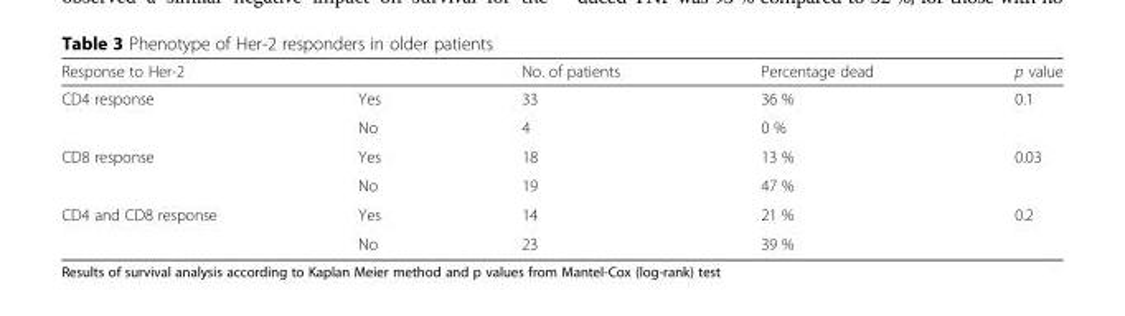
<table><thead><tr><td>Response to Her-2</td><td></td><td>No. of patients</td><td>Percentage dead</td><td>p value</td></tr></thead><tbody><tr><td rowspan="2">CD4 response</td><td>Yes</td><td>33</td><td>36 %</td><td>0.1</td></tr><tr><td>No</td><td>4</td><td>0 %</td><td></td></tr><tr><td rowspan="2">CD8 response</td><td>Yes</td><td>18</td><td>13 %</td><td>0.03</td></tr><tr><td>No</td><td>19</td><td>47 %</td><td></td></tr><tr><td rowspan="2">CD4 and CD8 response</td><td>Yes</td><td>14</td><td>21 %</td><td>0.2</td></tr><tr><td>No</td><td>23</td><td>39 %</td><td></td></tr></tbody></table>